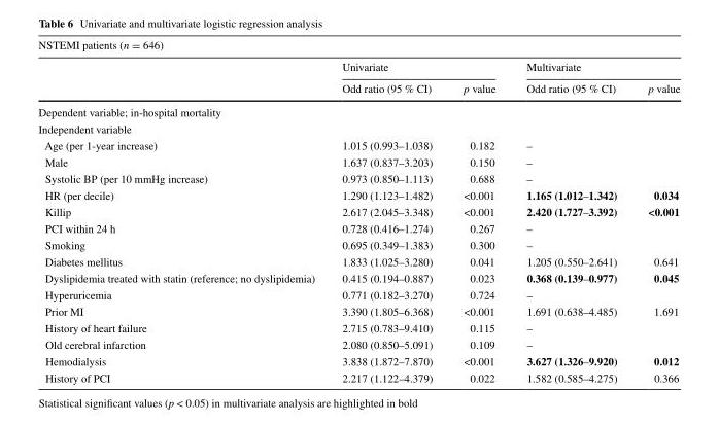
<table><thead><tr><td colspan="5">NSTEMI patients (n = 646)</td></tr><tr><td rowspan="2"></td><td colspan="2">Univariate</td><td colspan="2">Multivariate</td></tr><tr><td>Odd ratio (95 % CI)</td><td>p value</td><td>Odd ratio (95 % CI)</td><td>p value</td></tr></thead><tbody><tr><td colspan="5">Dependent variable; in-hospital mortality</td></tr><tr><td colspan="5">Independent variable</td></tr><tr><td>Age (per 1-year increase)</td><td>1.015 (0.993–1.038)</td><td>0.182</td><td>–</td><td></td></tr><tr><td>Male</td><td>1.637 (0.837–3.203)</td><td>0.150</td><td>–</td><td></td></tr><tr><td>Systolic BP (per 10 mmHg increase)</td><td>0.973 (0.850–1.113)</td><td>0.688</td><td>–</td><td></td></tr><tr><td>HR (per decile)</td><td>1.290 (1.123–1.482)</td><td>&lt;0.001</td><td>1.165 (1.012–1.342)</td><td>0.034</td></tr><tr><td>Killip</td><td>2.617 (2.045–3.348)</td><td>&lt;0.001</td><td>2.420 (1.727–3.392)</td><td>&lt;0.001</td></tr><tr><td>PCI within 24 h</td><td>0.728 (0.416–1.274)</td><td>0.267</td><td>–</td><td></td></tr><tr><td>Smoking</td><td>0.695 (0.349–1.383)</td><td>0.300</td><td>–</td><td></td></tr><tr><td>Diabetes mellitus</td><td>1.833 (1.025–3.280)</td><td>0.041</td><td>1.205 (0.550–2.641)</td><td>0.641</td></tr><tr><td>Dyslipidemia treated with statin (reference; no dyslipidemia)</td><td>0.415 (0.194–0.887)</td><td>0.023</td><td>0.368 (0.139–0.977)</td><td>0.045</td></tr><tr><td>Hyperuricemia</td><td>0.771 (0.182–3.270)</td><td>0.724</td><td>–</td><td></td></tr><tr><td>Prior MI</td><td>3.390 (1.805–6.368)</td><td>&lt;0.001</td><td>1.691 (0.638–4.485)</td><td>1.691</td></tr><tr><td>History of heart failure</td><td>2.715 (0.783–9.410)</td><td>0.115</td><td>–</td><td></td></tr><tr><td>Old cerebral infarction</td><td>2.080 (0.850–5.091)</td><td>0.109</td><td>–</td><td></td></tr><tr><td>Hemodialysis</td><td>3.838 (1.872–7.870)</td><td>&lt;0.001</td><td>3.627 (1.326–9.920)</td><td>0.012</td></tr><tr><td>History of PCI</td><td>2.217 (1.122–4.379)</td><td>0.022</td><td>1.582 (0.585–4.275)</td><td>0.366</td></tr></tbody></table>